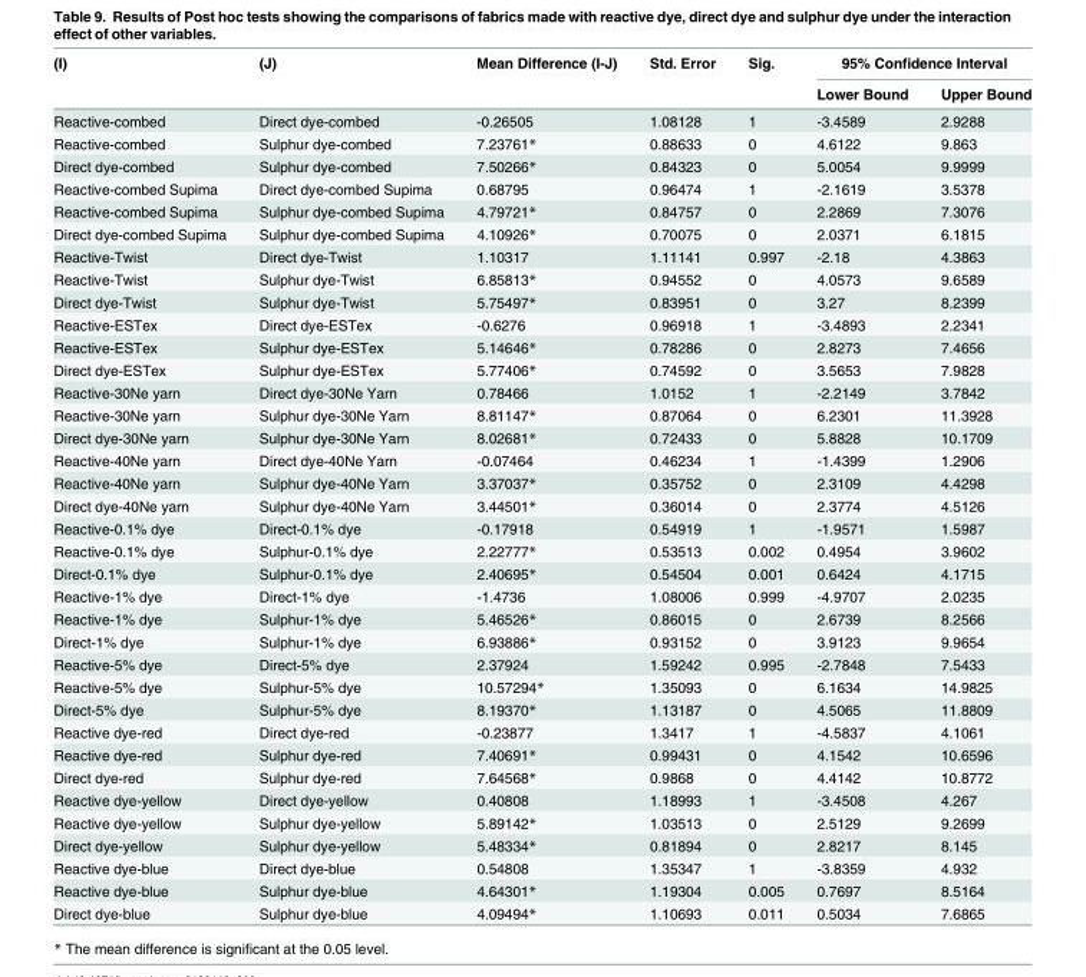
<table><thead><tr><td rowspan="2">(I)</td><td rowspan="2">(J)</td><td rowspan="2">Mean Difference (I-J)</td><td rowspan="2">Std. Error</td><td rowspan="2">Sig.</td><td colspan="2">95% Confidence Interval</td></tr><tr><td>Lower Bound</td><td>Upper Bound</td></tr></thead><tbody><tr><td>Reactive-combed</td><td>Direct dye-combed</td><td>-0.26505</td><td>1.08128</td><td>1</td><td>-3.4589</td><td>2.9288</td></tr><tr><td>Reactive-combed</td><td>Sulphur dye-combed</td><td>7.23761*</td><td>0.88633</td><td>0</td><td>4.6122</td><td>9.863</td></tr><tr><td>Direct dye-combed</td><td>Sulphur dye-combed</td><td>7.50266*</td><td>0.84323</td><td>0</td><td>5.0054</td><td>9.9999</td></tr><tr><td>Reactive-combed Supima</td><td>Direct dye-combed Supima</td><td>0.68795</td><td>0.96474</td><td>1</td><td>-2.1619</td><td>3.5378</td></tr><tr><td>Reactive-combed Supima</td><td>Sulphur dye-combed Supima</td><td>4.79721*</td><td>0.84757</td><td>0</td><td>2.2869</td><td>7.3076</td></tr><tr><td>Direct dye-combed Supima</td><td>Sulphur dye-combed Supima</td><td>4.10926*</td><td>0.70075</td><td>0</td><td>2.0371</td><td>6.1815</td></tr><tr><td>Reactive-Twist</td><td>Direct dye-Twist</td><td>1.10317</td><td>1.11141</td><td>0.997</td><td>-2.18</td><td>4.3863</td></tr><tr><td>Reactive-Twist</td><td>Sulphur dye-Twist</td><td>6.85813*</td><td>0.94552</td><td>0</td><td>4.0573</td><td>9.6589</td></tr><tr><td>Direct dye-Twist</td><td>Sulphur dye-Twist</td><td>5.75497*</td><td>0.83951</td><td>0</td><td>3.27</td><td>8.2399</td></tr><tr><td>Reactive-ESTex</td><td>Direct dye-ESTex</td><td>-0.6276</td><td>0.96918</td><td>1</td><td>-3.4893</td><td>2.2341</td></tr><tr><td>Reactive-ESTex</td><td>Sulphur dye-ESTex</td><td>5.14646*</td><td>0.78286</td><td>0</td><td>2.8273</td><td>7.4656</td></tr><tr><td>Direct dye-ESTex</td><td>Sulphur dye-ESTex</td><td>5.77406*</td><td>0.74592</td><td>0</td><td>3.5653</td><td>7.9828</td></tr><tr><td>Reactive-30Ne yarn</td><td>Direct dye-30Ne Yarn</td><td>0.78466</td><td>1.0152</td><td>1</td><td>-2.2149</td><td>3.7842</td></tr><tr><td>Reactive-30Ne yarn</td><td>Sulphur dye-30Ne Yarn</td><td>8.81147*</td><td>0.87064</td><td>0</td><td>6.2301</td><td>11.3928</td></tr><tr><td>Direct dye-30Ne yarn</td><td>Sulphur dye-30Ne Yarn</td><td>8.02681*</td><td>0.72433</td><td>0</td><td>5.8828</td><td>10.1709</td></tr><tr><td>Reactive-40Ne yarn</td><td>Direct dye-40Ne Yarn</td><td>-0.07464</td><td>0.46234</td><td>1</td><td>-1.4399</td><td>1.2906</td></tr><tr><td>Reactive-40Ne yarn</td><td>Sulphur dye-40Ne Yarn</td><td>3.37037*</td><td>0.35752</td><td>0</td><td>2.3109</td><td>4.4298</td></tr><tr><td>Direct dye-40Ne yarn</td><td>Sulphur dye-40Ne Yarn</td><td>3.44501*</td><td>0.36014</td><td>0</td><td>2.3774</td><td>4.5126</td></tr><tr><td>Reactive-0.1% dye</td><td>Direct-0.1% dye</td><td>-0.17918</td><td>0.54919</td><td>1</td><td>-1.9571</td><td>1.5987</td></tr><tr><td>Reactive-0.1% dye</td><td>Sulphur-0.1% dye</td><td>2.22777*</td><td>0.53513</td><td>0.002</td><td>0.4954</td><td>3.9602</td></tr><tr><td>Direct-0.1% dye</td><td>Sulphur-0.1% dye</td><td>2.40695*</td><td>0.54504</td><td>0.001</td><td>0.6424</td><td>4.1715</td></tr><tr><td>Reactive-1% dye</td><td>Direct-1% dye</td><td>-1.4736</td><td>1.08006</td><td>0.999</td><td>-4.9707</td><td>2.0235</td></tr><tr><td>Reactive-1% dye</td><td>Sulphur-1% dye</td><td>5.46526*</td><td>0.86015</td><td>0</td><td>2.6739</td><td>8.2566</td></tr><tr><td>Direct-1% dye</td><td>Sulphur-1% dye</td><td>6.93886*</td><td>0.93152</td><td>0</td><td>3.9123</td><td>9.9654</td></tr><tr><td>Reactive-5% dye</td><td>Direct-5% dye</td><td>2.37924</td><td>1.59242</td><td>0.995</td><td>-2.7848</td><td>7.5433</td></tr><tr><td>Reactive-5% dye</td><td>Sulphur-5% dye</td><td>10.57294*</td><td>1.35093</td><td>0</td><td>6.1634</td><td>14.9825</td></tr><tr><td>Direct-5% dye</td><td>Sulphur-5% dye</td><td>8.19370*</td><td>1.13187</td><td>0</td><td>4.5065</td><td>11.8809</td></tr><tr><td>Reactive dye-red</td><td>Direct dye-red</td><td>-0.23877</td><td>1.3417</td><td>1</td><td>-4.5837</td><td>4.1061</td></tr><tr><td>Reactive dye-red</td><td>Sulphur dye-red</td><td>7.40691*</td><td>0.99431</td><td>0</td><td>4.1542</td><td>10.6596</td></tr><tr><td>Direct dye-red</td><td>Sulphur dye-red</td><td>7.64568*</td><td>0.9868</td><td>0</td><td>4.4142</td><td>10.8772</td></tr><tr><td>Reactive dye-yellow</td><td>Direct dye-yellow</td><td>0.40808</td><td>1.18993</td><td>1</td><td>-3.4508</td><td>4.267</td></tr><tr><td>Reactive dye-yellow</td><td>Sulphur dye-yellow</td><td>5.89142*</td><td>1.03513</td><td>0</td><td>2.5129</td><td>9.2699</td></tr><tr><td>Direct dye-yellow</td><td>Sulphur dye-yellow</td><td>5.48334*</td><td>0.81894</td><td>0</td><td>2.8217</td><td>8.145</td></tr><tr><td>Reactive dye-blue</td><td>Direct dye-blue</td><td>0.54808</td><td>1.35347</td><td>1</td><td>-3.8359</td><td>4.932</td></tr><tr><td>Reactive dye-blue</td><td>Sulphur dye-blue</td><td>4.64301*</td><td>1.19304</td><td>0.005</td><td>0.7697</td><td>8.5164</td></tr><tr><td>Direct dye-blue</td><td>Sulphur dye-blue</td><td>4.09494*</td><td>1.10693</td><td>0.011</td><td>0.5034</td><td>7.6865</td></tr></tbody></table>